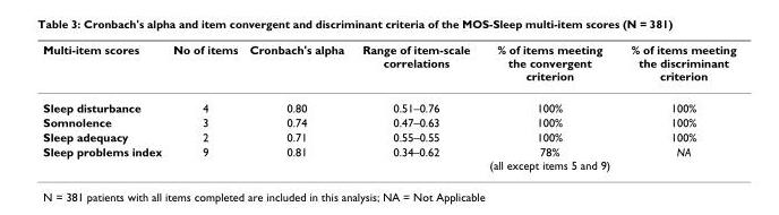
<table><thead><tr><td>Multi-item scores</td><td>No of items</td><td>Cronbach&#x27;s alpha</td><td>Range of item-scale correlations</td><td>% of items meeting the convergent criterion</td><td>% of items meeting the discriminant criterion</td></tr></thead><tbody><tr><td>Sleep disturbance</td><td>4</td><td>0.80</td><td>0.51–0.76</td><td>100%</td><td>100%</td></tr><tr><td>Somnolence</td><td>3</td><td>0.74</td><td>0.47–0.63</td><td>100%</td><td>100%</td></tr><tr><td>Sleep adequacy</td><td>2</td><td>0.71</td><td>0.55–0.55</td><td>100%</td><td>100%</td></tr><tr><td>Sleep problems index</td><td>9</td><td>0.81</td><td>0.34–0.62</td><td>78% (all except items 5 and 9)</td><td>NA</td></tr></tbody></table>